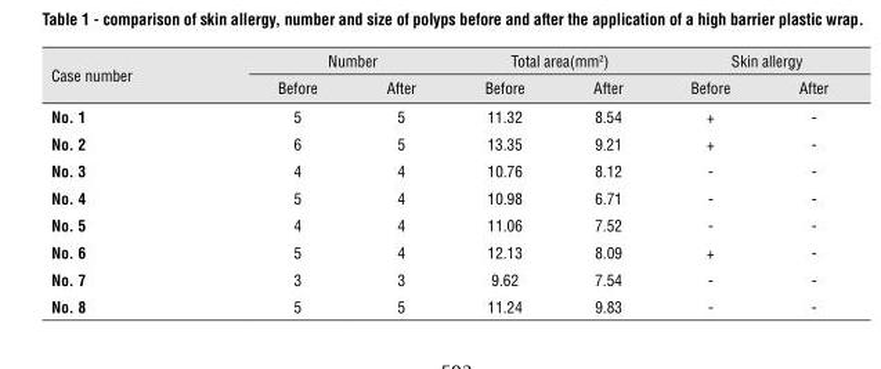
<table><thead><tr><td rowspan="2">Case number</td><td colspan="2">Number</td><td colspan="2">Total area(mm<sup>2</sup>)</td><td colspan="2">Skin allergy</td></tr><tr><td>Before</td><td>After</td><td>Before</td><td>After</td><td>Before</td><td>After</td></tr></thead><tbody><tr><td>No. 1</td><td>5</td><td>5</td><td>11.32</td><td>8.54</td><td>+</td><td>-</td></tr><tr><td>No. 2</td><td>6</td><td>5</td><td>13.35</td><td>9.21</td><td>+</td><td>-</td></tr><tr><td>No. 3</td><td>4</td><td>4</td><td>10.76</td><td>8.12</td><td>-</td><td>-</td></tr><tr><td>No. 4</td><td>5</td><td>4</td><td>10.98</td><td>6.71</td><td>-</td><td>-</td></tr><tr><td>No. 5</td><td>4</td><td>4</td><td>11.06</td><td>7.52</td><td>-</td><td>-</td></tr><tr><td>No. 6</td><td>5</td><td>4</td><td>12.13</td><td>8.09</td><td>+</td><td>-</td></tr><tr><td>No. 7</td><td>3</td><td>3</td><td>9.62</td><td>7.54</td><td>-</td><td>-</td></tr><tr><td>No. 8</td><td>5</td><td>5</td><td>11.24</td><td>9.83</td><td>-</td><td>-</td></tr></tbody></table>